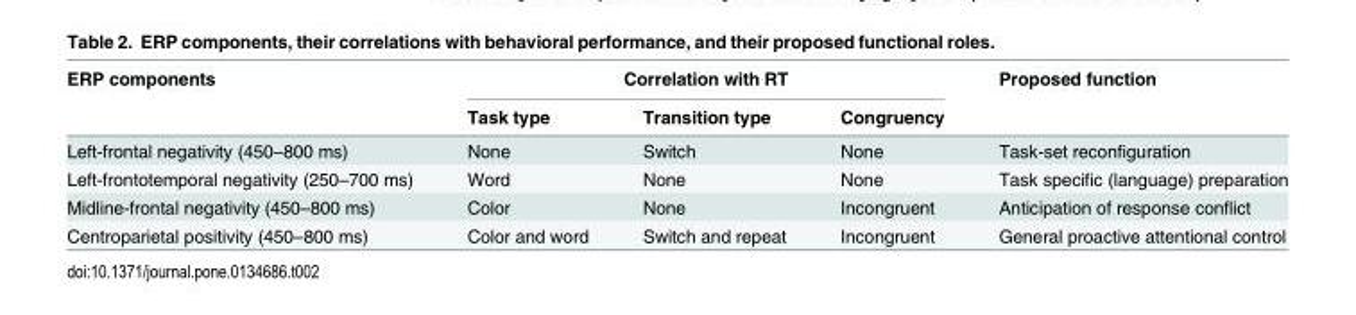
<table><thead><tr><td rowspan="2">ERP components</td><td colspan="3">Correlation with RT</td><td rowspan="2">Proposed function</td></tr><tr><td>Task type</td><td>Transition type</td><td>Congruency</td></tr></thead><tbody><tr><td>Left-frontal negativity (450–800 ms)</td><td>None</td><td>Switch</td><td>None</td><td>Task-set reconfiguration</td></tr><tr><td>Left-frontotemporal negativity (250–700 ms)</td><td>Word</td><td>None</td><td>None</td><td>Task specific (language) preparation</td></tr><tr><td>Midline-frontal negativity (450–800 ms)</td><td>Color</td><td>None</td><td>Incongruent</td><td>Anticipation of response conflict</td></tr><tr><td>Centroparietal positivity (450–800 ms)</td><td>Color and word</td><td>Switch and repeat</td><td>Incongruent</td><td>General proactive attentional control</td></tr></tbody></table>